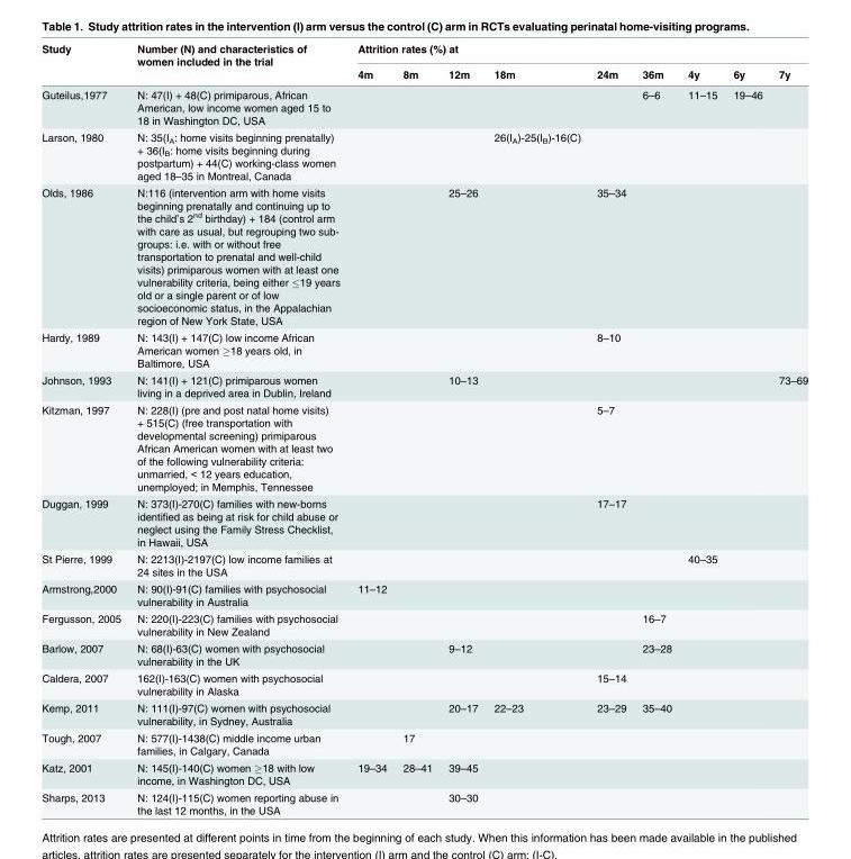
<table><thead><tr><td rowspan="2">Study</td><td rowspan="2">Number (N) and characteristics of women included in the trial</td><td colspan="9">Attrition rates (%) at</td></tr><tr><td>4m</td><td>8m</td><td>12m</td><td>18m</td><td>24m</td><td>36m</td><td>4y</td><td>6y</td><td>7y</td></tr></thead><tbody><tr><td>Guteilus,1977</td><td>N: 47(I) + 48(C) primiparous, African American, low income women aged 15 to 18 in Washington DC, USA</td><td></td><td></td><td></td><td></td><td></td><td>6–6</td><td>11–15</td><td>19–46</td><td></td></tr><tr><td>Larson, 1980</td><td>N: 35(I<sub>A</sub>: home visits beginning prenatally) + 36(I<sub>B</sub>: home visits beginning during postpartum) + 44(C) working-class women aged 18–35 in Montreal, Canada</td><td></td><td></td><td></td><td>26(I<sub>A</sub>)-25(I<sub>B</sub>)-16(C)</td><td></td><td></td><td></td><td></td><td></td></tr><tr><td>Olds, 1986</td><td>N:116 (intervention arm with home visits beginning prenatally and continuing up to the child’s 2<sup>nd</sup> birthday) + 184 (control arm with care as usual, but regrouping two sub- groups: i.e. with or without free transportation to prenatal and well-child visits) primiparous women with at least one vulnerability criteria, being either ≤19 years old or a single parent or of low socioeconomic status, in the Appalachian region of New York State, USA</td><td></td><td></td><td>25–26</td><td></td><td>35–34</td><td></td><td></td><td></td><td></td></tr><tr><td>Hardy, 1989</td><td>N: 143(I) + 147(C) low income African American women ≥18 years old, in Baltimore, USA</td><td></td><td></td><td></td><td></td><td>8–10</td><td></td><td></td><td></td><td></td></tr><tr><td>Johnson, 1993</td><td>N: 141(I) + 121(C) primiparous women living in a deprived area in Dublin, Ireland</td><td></td><td></td><td>10–13</td><td></td><td></td><td></td><td></td><td></td><td>73–69</td></tr><tr><td>Kitzman, 1997</td><td>N: 228(I) (pre and post natal home visits) + 515(C) (free transportation with developmental screening) primiparous African American women with at least two of the following vulnerability criteria: unmarried, &lt; 12 years education, unemployed; in Memphis, Tennessee</td><td></td><td></td><td></td><td></td><td>5–7</td><td></td><td></td><td></td><td></td></tr><tr><td>Duggan, 1999</td><td>N: 373(I)-270(C) families with new-borns identified as being at risk for child abuse or neglect using the Family Stress Checklist, in Hawaii, USA</td><td></td><td></td><td></td><td></td><td>17–17</td><td></td><td></td><td></td><td></td></tr><tr><td>St Pierre, 1999</td><td>N: 2213(I)-2197(C) low income families at 24 sites in the USA</td><td></td><td></td><td></td><td></td><td></td><td></td><td>40–35</td><td></td><td></td></tr><tr><td>Armstrong,2000</td><td>N: 90(I)-91(C) families with psychosocial vulnerability in Australia</td><td>11–12</td><td></td><td></td><td></td><td></td><td></td><td></td><td></td><td></td></tr><tr><td>Fergusson, 2005</td><td>N: 220(I)-223(C) families with psychosocial vulnerability in New Zealand</td><td></td><td></td><td></td><td></td><td></td><td>16–7</td><td></td><td></td><td></td></tr><tr><td>Barlow, 2007</td><td>N: 68(I)-63(C) women with psychosocial vulnerability in the UK</td><td></td><td></td><td>9–12</td><td></td><td></td><td>23–28</td><td></td><td></td><td></td></tr><tr><td>Caldera, 2007</td><td>162(I)-163(C) women with psychosocial vulnerability in Alaska</td><td></td><td></td><td></td><td></td><td>15–14</td><td></td><td></td><td></td><td></td></tr><tr><td>Kemp, 2011</td><td>N: 111(I)-97(C) women with psychosocial vulnerability, in Sydney, Australia</td><td></td><td></td><td>20–17</td><td>22–23</td><td>23–29</td><td>35–40</td><td></td><td></td><td></td></tr><tr><td>Tough, 2007</td><td>N: 577(I)-1438(C) middle income urban families, in Calgary, Canada</td><td></td><td>17</td><td></td><td></td><td></td><td></td><td></td><td></td><td></td></tr><tr><td>Katz, 2001</td><td>N: 145(I)-140(C) women ≥18 with low income, in Washington DC, USA</td><td>19–34</td><td>28–41</td><td>39–45</td><td></td><td></td><td></td><td></td><td></td><td></td></tr><tr><td>Sharps, 2013</td><td>N: 124(I)-115(C) women reporting abuse in the last 12 months, in the USA</td><td></td><td></td><td>30–30</td><td></td><td></td><td></td><td></td><td></td><td></td></tr></tbody></table>